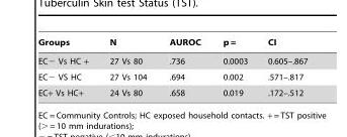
<table><thead><tr><td>Groups</td><td>N</td><td>AUROC</td><td>p =</td><td>CI</td></tr></thead><tbody><tr><td>EC− Vs HC +</td><td>27 Vs 80</td><td>.736</td><td>0.0003</td><td>0.605–.867</td></tr><tr><td>EC− VS HC</td><td>27 Vs 104</td><td>.694</td><td>0.002</td><td>.571–.817</td></tr><tr><td>EC+ Vs HC+</td><td>24 Vs 80</td><td>.658</td><td>0.019</td><td>.172–.512</td></tr></tbody></table>